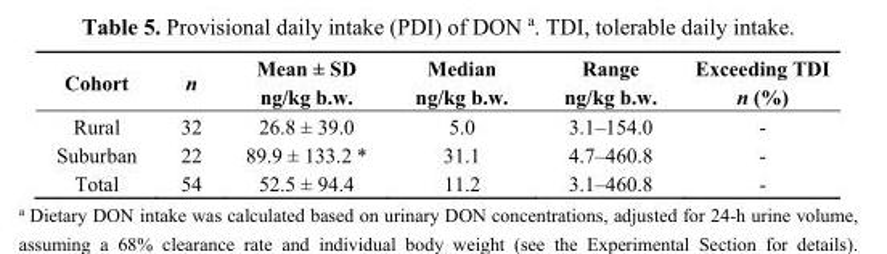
<table><thead><tr><td>Cohort</td><td>n</td><td>Mean ± SD ng/kg b.w.</td><td>Median ng/kg b.w.</td><td>Range ng/kg b.w.</td><td>Exceeding TDI n (%)</td></tr></thead><tbody><tr><td>Rural</td><td>32</td><td>26.8 ± 39.0</td><td>5.0</td><td>3.1–154.0</td><td>-</td></tr><tr><td>Suburban</td><td>22</td><td>89.9 ± 133.2 *</td><td>31.1</td><td>4.7–460.8</td><td>-</td></tr><tr><td>Total</td><td>54</td><td>52.5 ± 94.4</td><td>11.2</td><td>3.1–460.8</td><td>-</td></tr></tbody></table>